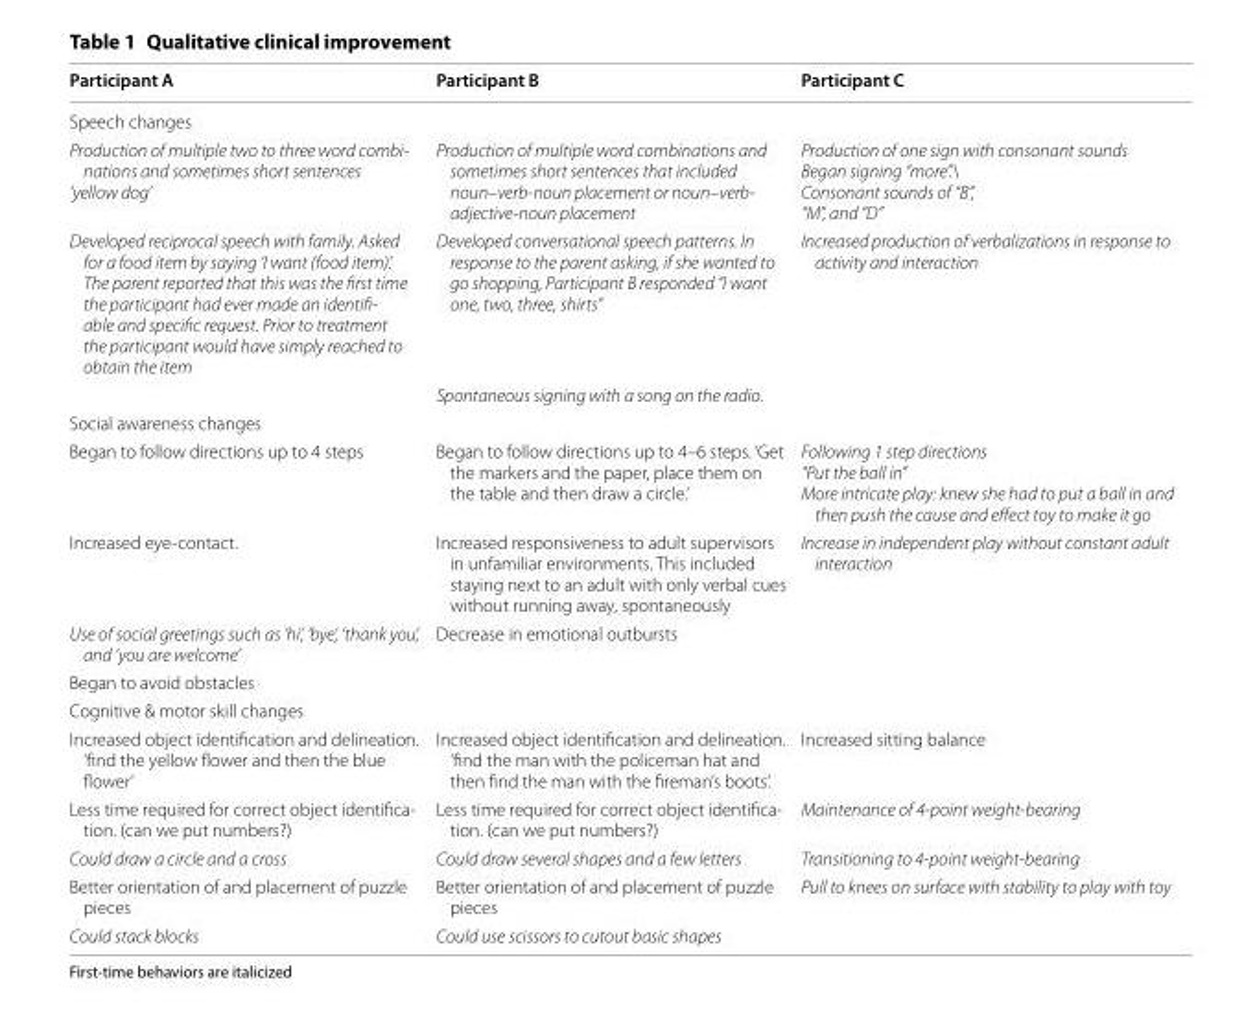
<table><thead><tr><td>Participant A</td><td>Participant B</td><td>Participant C</td></tr></thead><tbody><tr><td colspan="3">Speech changes</td></tr><tr><td>Production of multiple two to three word combi- nations and sometimes short sentences ‘yellow dog’</td><td>Production of multiple word combinations and sometimes short sentences that included noun–verb-noun placement or noun–verb- adjective-noun placement</td><td>Production of one sign with consonant sounds Began signing “more”.\ Consonant sounds of “B”, “M”, and “D”</td></tr><tr><td rowspan="2">Developed reciprocal speech with family. Asked for a food item by saying ‘I want (food item)’. The parent reported that this was the first time the participant had ever made an identifi- able and specific request. Prior to treatment the participant would have simply reached to obtain the item</td><td>Developed conversational speech patterns. In response to the parent asking, if she wanted to go shopping, Participant B responded “I want one, two, three, shirts”</td><td>Increased production of verbalizations in response to activity and interaction</td></tr><tr><td>Spontaneous signing with a song on the radio.</td><td></td></tr><tr><td colspan="3">Social awareness changes</td></tr><tr><td>Began to follow directions up to 4 steps</td><td>Began to follow directions up to 4–6 steps. ‘Get the markers and the paper, place them on the table and then draw a circle.’</td><td>Following 1 step directions “Put the ball in” More intricate play: knew she had to put a ball in and then push the cause and effect toy to make it go</td></tr><tr><td>Increased eye-contact.</td><td>Increased responsiveness to adult supervisors in unfamiliar environments. This included staying next to an adult with only verbal cues without running away, spontaneously</td><td>Increase in independent play without constant adult interaction</td></tr><tr><td>Use of social greetings such as ‘hi’, ‘bye’, ‘thank you’, and ‘you are welcome’</td><td>Decrease in emotional outbursts</td><td></td></tr><tr><td colspan="3">Began to avoid obstacles</td></tr><tr><td colspan="3">Cognitive &amp; motor skill changes</td></tr><tr><td>Increased object identification and delineation. ‘find the yellow flower and then the blue flower’</td><td>Increased object identification and delineation. ‘find the man with the policeman hat and then find the man with the fireman’s boots’.</td><td>Increased sitting balance</td></tr><tr><td>Less time required for correct object identifica- tion. (can we put numbers?)</td><td>Less time required for correct object identifica- tion. (can we put numbers?)</td><td>Maintenance of 4-point weight-bearing</td></tr><tr><td>Could draw a circle and a cross</td><td>Could draw several shapes and a few letters</td><td>Transitioning to 4-point weight-bearing</td></tr><tr><td>Better orientation of and placement of puzzle pieces</td><td>Better orientation of and placement of puzzle pieces</td><td>Pull to knees on surface with stability to play with toy</td></tr><tr><td>Could stack blocks</td><td>Could use scissors to cutout basic shapes</td><td></td></tr></tbody></table>